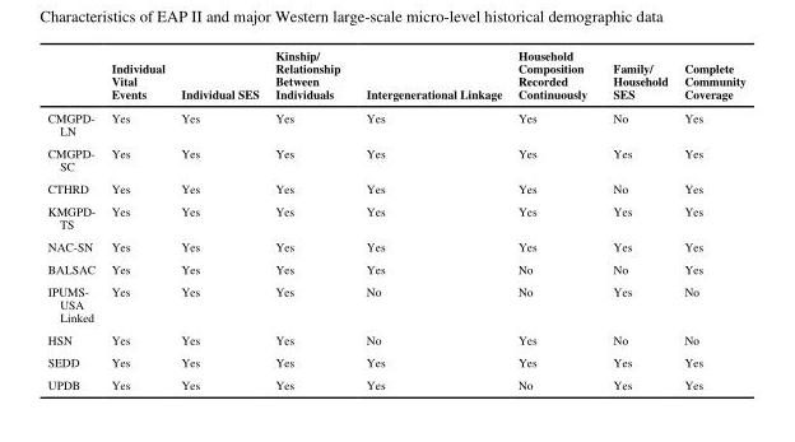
<table><thead><tr><td></td><td>Individual Vital Events</td><td>Individual SES</td><td>Kinship/ Relationship Between Individuals</td><td>Intergenerational Linkage</td><td>Household Composition Recorded Continuously</td><td>Family/ Household SES</td><td>Complete Community Coverage</td></tr></thead><tbody><tr><td>CMGPD- LN</td><td>Yes</td><td>Yes</td><td>Yes</td><td>Yes</td><td>Yes</td><td>No</td><td>Yes</td></tr><tr><td>CMGPD- SC</td><td>Yes</td><td>Yes</td><td>Yes</td><td>Yes</td><td>Yes</td><td>Yes</td><td>Yes</td></tr><tr><td>CTHRD</td><td>Yes</td><td>Yes</td><td>Yes</td><td>Yes</td><td>Yes</td><td>No</td><td>Yes</td></tr><tr><td>KMGPD- TS</td><td>Yes</td><td>Yes</td><td>Yes</td><td>Yes</td><td>Yes</td><td>Yes</td><td>Yes</td></tr><tr><td>NAC-SN</td><td>Yes</td><td>Yes</td><td>Yes</td><td>Yes</td><td>Yes</td><td>Yes</td><td>Yes</td></tr><tr><td>BALSAC</td><td>Yes</td><td>Yes</td><td>Yes</td><td>Yes</td><td>No</td><td>No</td><td>Yes</td></tr><tr><td>IPUMS- USA Linked</td><td>Yes</td><td>Yes</td><td>Yes</td><td>No</td><td>No</td><td>Yes</td><td>No</td></tr><tr><td>HSN</td><td>Yes</td><td>Yes</td><td>Yes</td><td>No</td><td>Yes</td><td>No</td><td>No</td></tr><tr><td>SEDD</td><td>Yes</td><td>Yes</td><td>Yes</td><td>Yes</td><td>Yes</td><td>Yes</td><td>Yes</td></tr><tr><td>UPDB</td><td>Yes</td><td>Yes</td><td>Yes</td><td>Yes</td><td>No</td><td>Yes</td><td>Yes</td></tr></tbody></table>